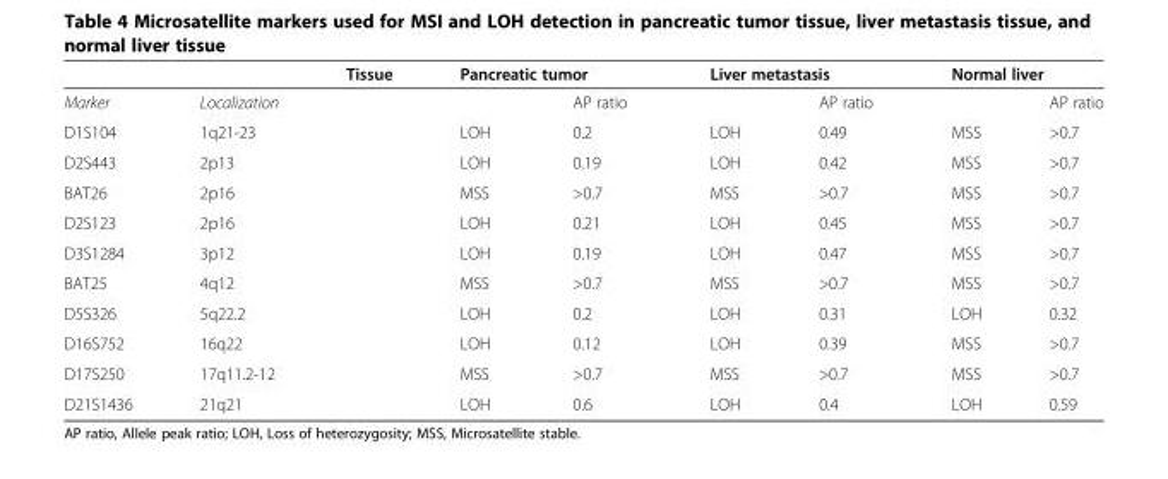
<table><thead><tr><td rowspan="2">Marker</td><td rowspan="2">Localization</td><td rowspan="2">Tissue</td><td colspan="2">Pancreatic tumor</td><td colspan="2">Liver metastasis</td><td colspan="2">Normal liver</td></tr><tr><td></td><td>AP ratio</td><td></td><td>AP ratio</td><td></td><td>AP ratio</td></tr></thead><tbody><tr><td>D1S104</td><td>1q21-23</td><td></td><td>LOH</td><td>0.2</td><td>LOH</td><td>0.49</td><td>MSS</td><td>&gt;0.7</td></tr><tr><td>D2S443</td><td>2p13</td><td></td><td>LOH</td><td>0.19</td><td>LOH</td><td>0.42</td><td>MSS</td><td>&gt;0.7</td></tr><tr><td>BAT26</td><td>2p16</td><td></td><td>MSS</td><td>&gt;0.7</td><td>MSS</td><td>&gt;0.7</td><td>MSS</td><td>&gt;0.7</td></tr><tr><td>D2S123</td><td>2p16</td><td></td><td>LOH</td><td>0.21</td><td>LOH</td><td>0.45</td><td>MSS</td><td>&gt;0.7</td></tr><tr><td>D3S1284</td><td>3p12</td><td></td><td>LOH</td><td>0.19</td><td>LOH</td><td>0.47</td><td>MSS</td><td>&gt;0.7</td></tr><tr><td>BAT25</td><td>4q12</td><td></td><td>MSS</td><td>&gt;0.7</td><td>MSS</td><td>&gt;0.7</td><td>MSS</td><td>&gt;0.7</td></tr><tr><td>D5S326</td><td>5q22.2</td><td></td><td>LOH</td><td>0.2</td><td>LOH</td><td>0.31</td><td>LOH</td><td>0.32</td></tr><tr><td>D16S752</td><td>16q22</td><td></td><td>LOH</td><td>0.12</td><td>LOH</td><td>0.39</td><td>MSS</td><td>&gt;0.7</td></tr><tr><td>D17S250</td><td>17q11.2-12</td><td></td><td>MSS</td><td>&gt;0.7</td><td>MSS</td><td>&gt;0.7</td><td>MSS</td><td>&gt;0.7</td></tr><tr><td>D21S1436</td><td>21q21</td><td></td><td>LOH</td><td>0.6</td><td>LOH</td><td>0.4</td><td>LOH</td><td>0.59</td></tr></tbody></table>